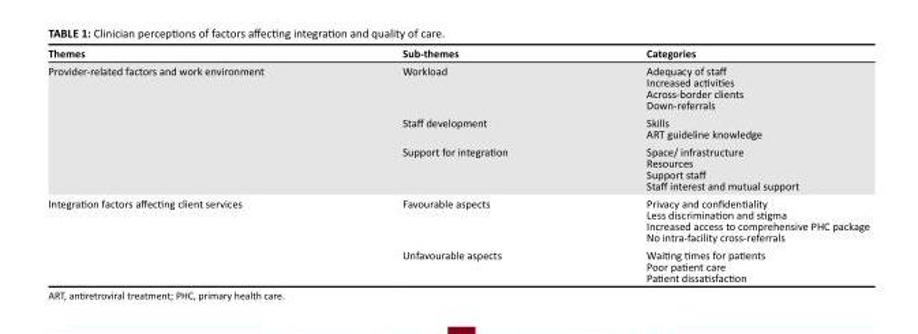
<table><thead><tr><td>Themes</td><td>Sub-themes</td><td>Categories</td></tr></thead><tbody><tr><td rowspan="3">Provider-related factors and work environment</td><td>Workload</td><td>Adequacy of staff Increased activities Across-border clients Down-referrals</td></tr><tr><td>Staff development</td><td>Skills ART guideline knowledge</td></tr><tr><td>Support for integration</td><td>Space/ infrastructure Resources Support staff Staff interest and mutual support</td></tr><tr><td rowspan="2">Integration factors affecting client services</td><td>Favourable aspects</td><td>Privacy and confidentiality Less discrimination and stigma Increased access to comprehen sive PHC package No intra-facility cross-referrals</td></tr><tr><td>Unfavourable aspects</td><td>Waiting times for patients Poor patient care Patient dissatisfaction</td></tr></tbody></table>